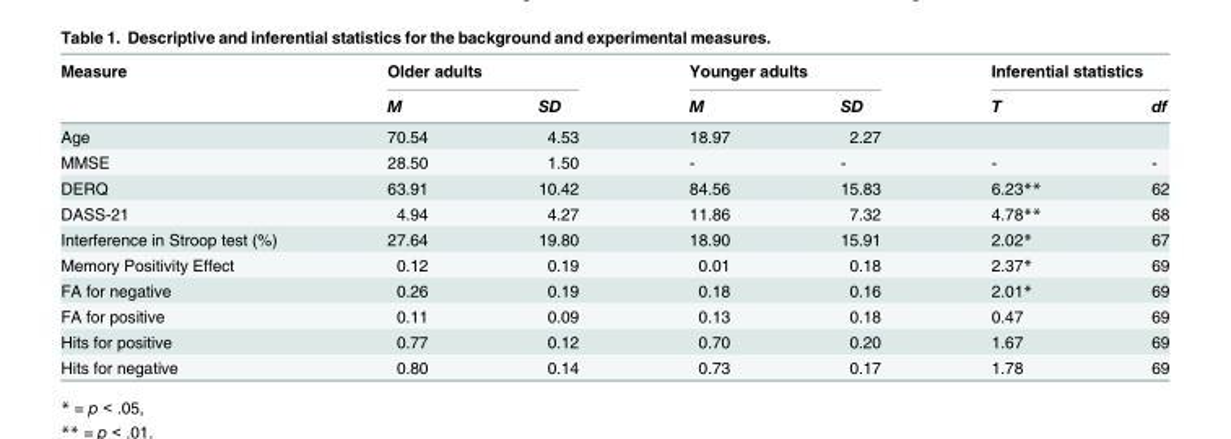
<table><thead><tr><td rowspan="2">Measure</td><td colspan="2">Older adults</td><td colspan="2">Younger adults</td><td colspan="2">Inferential statistics</td></tr><tr><td>M</td><td>SD</td><td>M</td><td>SD</td><td>T</td><td>df</td></tr></thead><tbody><tr><td>Age</td><td>70.54</td><td>4.53</td><td>18.97</td><td>2.27</td><td></td><td></td></tr><tr><td>MMSE</td><td>28.50</td><td>1.50</td><td>-</td><td>-</td><td>-</td><td>-</td></tr><tr><td>DERQ</td><td>63.91</td><td>10.42</td><td>84.56</td><td>15.83</td><td>6.23**</td><td>62</td></tr><tr><td>DASS-21</td><td>4.94</td><td>4.27</td><td>11.86</td><td>7.32</td><td>4.78**</td><td>68</td></tr><tr><td>Interference in Stroop test (%)</td><td>27.64</td><td>19.80</td><td>18.90</td><td>15.91</td><td>2.02*</td><td>67</td></tr><tr><td>Memory Positivity Effect</td><td>0.12</td><td>0.19</td><td>0.01</td><td>0.18</td><td>2.37*</td><td>69</td></tr><tr><td>FA for negative</td><td>0.26</td><td>0.19</td><td>0.18</td><td>0.16</td><td>2.01*</td><td>69</td></tr><tr><td>FA for positive</td><td>0.11</td><td>0.09</td><td>0.13</td><td>0.18</td><td>0.47</td><td>69</td></tr><tr><td>Hits for positive</td><td>0.77</td><td>0.12</td><td>0.70</td><td>0.20</td><td>1.67</td><td>69</td></tr><tr><td>Hits for negative</td><td>0.80</td><td>0.14</td><td>0.73</td><td>0.17</td><td>1.78</td><td>69</td></tr></tbody></table>